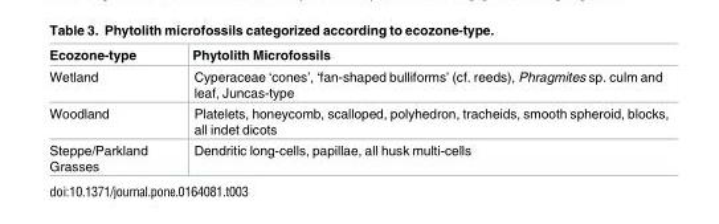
<table><thead><tr><td>Ecozone-type</td><td>Phytolith Microfossils</td></tr></thead><tbody><tr><td>Wetland</td><td>Cyperaceae ‘cones’, ‘fan-shaped bulliforms’ (cf. reeds), Phragmites sp. culm and leaf, Juncas-type</td></tr><tr><td>Woodland</td><td>Platelets, honeycomb, scalloped, polyhedron, tracheids, smooth spheroid, blocks, all indet dicots</td></tr><tr><td>Steppe/Parkland Grasses</td><td>Dendritic long-cells, papillae, all husk multi-cells</td></tr></tbody></table>